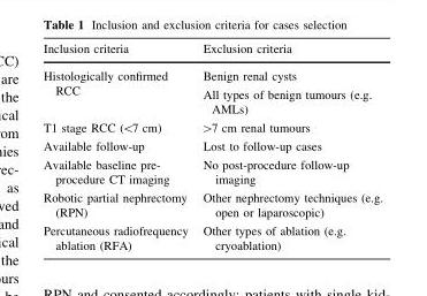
<table><thead><tr><td>Inclusion criteria</td><td>Exclusion criteria</td></tr></thead><tbody><tr><td>Histologically confirmed RCC</td><td>Benign renal cysts All types of benign tumours (e.g. AMLs)</td></tr><tr><td>T1 stage RCC (&lt;7 cm)</td><td>&gt;7 cm renal tumours</td></tr><tr><td>Available follow-up</td><td>Lost to follow-up cases</td></tr><tr><td>Available baseline pre- procedure CT imaging</td><td>No post-procedure follow-up imaging</td></tr><tr><td>Robotic partial nephrectomy (RPN)</td><td>Other nephrectomy techniques (e.g. open or laparoscopic)</td></tr><tr><td>Percutaneous radiofrequency ablation (RFA)</td><td>Other types of ablation (e.g. cryoablation)</td></tr></tbody></table>